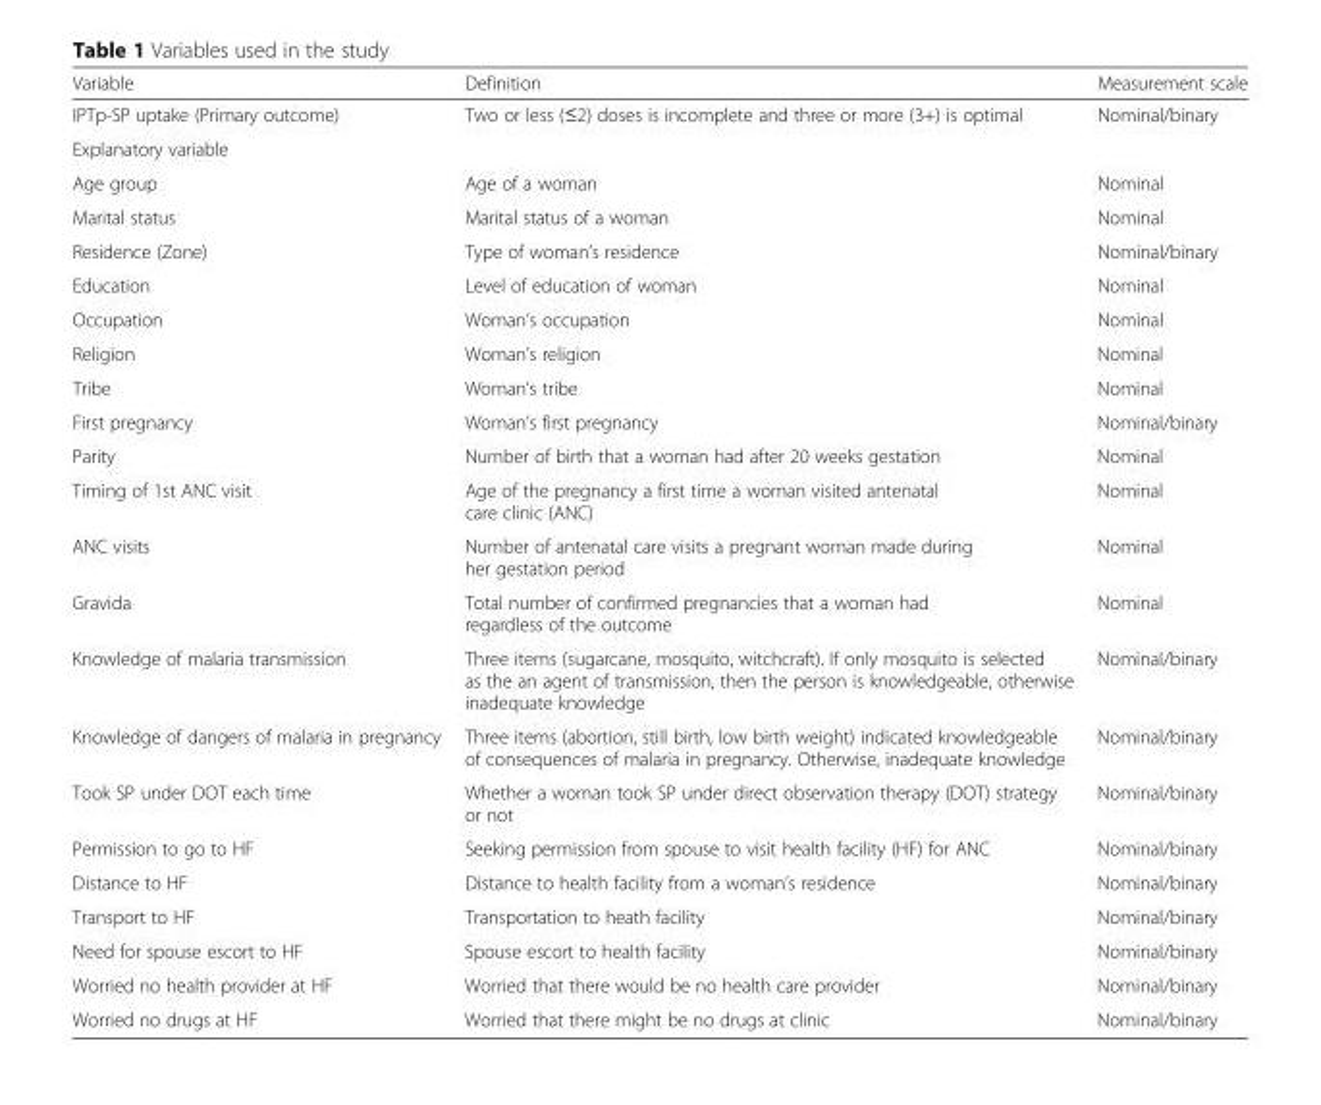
<table><thead><tr><td>Variable</td><td>Definition</td><td>Measurement scale</td></tr></thead><tbody><tr><td>IPTp-SP uptake (Primary outcome)</td><td>Two or less (≤2) doses is incomplete and three or more (3+) is optimal</td><td>Nominal/binary</td></tr><tr><td colspan="3">Explanatory variable</td></tr><tr><td>Age group</td><td>Age of a woman</td><td>Nominal</td></tr><tr><td>Marital status</td><td>Marital status of a woman</td><td>Nominal</td></tr><tr><td>Residence (Zone)</td><td>Type of woman’s residence</td><td>Nominal/binary</td></tr><tr><td>Education</td><td>Level of education of woman</td><td>Nominal</td></tr><tr><td>Occupation</td><td>Woman’s occupation</td><td>Nominal</td></tr><tr><td>Religion</td><td>Woman’s religion</td><td>Nominal</td></tr><tr><td>Tribe</td><td>Woman’s tribe</td><td>Nominal</td></tr><tr><td>First pregnancy</td><td>Woman’s first pregnancy</td><td>Nominal/binary</td></tr><tr><td>Parity</td><td>Number of birth that a woman had after 20 weeks gestation</td><td>Nominal</td></tr><tr><td>Timing of 1st ANC visit</td><td>Age of the pregnancy a first time a woman visited antenatal care clinic (ANC)</td><td>Nominal</td></tr><tr><td>ANC visits</td><td>Number of antenatal care visits a pregnant woman made during her gestation period</td><td>Nominal</td></tr><tr><td>Gravida</td><td>Total number of confirmed pregnancies that a woman had regardless of the outcome</td><td>Nominal</td></tr><tr><td>Knowledge of malaria transmission</td><td>Three items (sugarcane, mosquito, witchcraft). If only mosquito is selected as the an agent of transmission, then the person is knowledgeable, otherwise inadequate knowledge</td><td>Nominal/binary</td></tr><tr><td>Knowledge of dangers of malaria in pregnancy</td><td>Three items (abortion, still birth, low birth weight) indicated knowledgeable of consequences of malaria in pregnancy. Otherwise, inadequate knowledge</td><td>Nominal/binary</td></tr><tr><td>Took SP under DOT each time</td><td>Whether a woman took SP under direct observation therapy (DOT) strategy or not</td><td>Nominal/binary</td></tr><tr><td>Permission to go to HF</td><td>Seeking permission from spouse to visit health facility (HF) for ANC</td><td>Nominal/binary</td></tr><tr><td>Distance to HF</td><td>Distance to health facility from a woman’s residence</td><td>Nominal/binary</td></tr><tr><td>Transport to HF</td><td>Transportation to heath facility</td><td>Nominal/binary</td></tr><tr><td>Need for spouse escort to HF</td><td>Spouse escort to health facility</td><td>Nominal/binary</td></tr><tr><td>Worried no health provider at HF</td><td>Worried that there would be no health care provider</td><td>Nominal/binary</td></tr><tr><td>Worried no drugs at HF</td><td>Worried that there might be no drugs at clinic</td><td>Nominal/binary</td></tr></tbody></table>